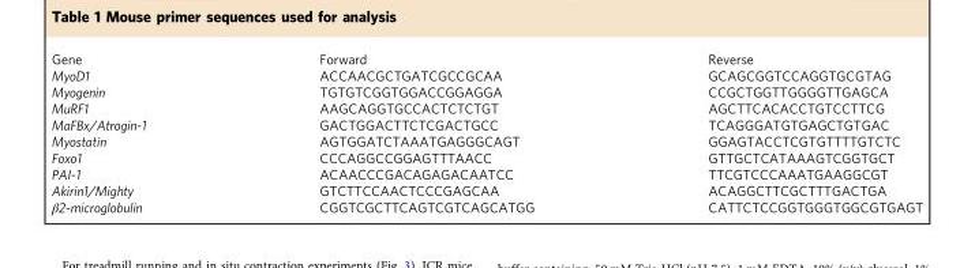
<table><tbody><tr><td>Gene</td><td>Forward</td><td>Reverse</td></tr><tr><td>MyoD1</td><td>ACCAACGCTGATCGCCGCAA</td><td>GCAGCGGTCCAGGTGCGTAG</td></tr><tr><td>Myogenin</td><td>TGTGTCGGTGGACCGGAGGA</td><td>CCGCTGGTTGGGGTTGAGCA</td></tr><tr><td>MuRF1</td><td>AAGCAGGTGCCACTCTCTGT</td><td>AGCTTCACACCTGTCCTTCG</td></tr><tr><td>MaFBx/Atrogin-1</td><td>GACTGGACTTCTCGACTGCC</td><td>TCAGGGATGTGAGCTGTGAC</td></tr><tr><td>Myostatin</td><td>AGTGGATCTAAATGAGGGCAGT</td><td>GGAGTACCTCGTGTTTTGTCTC</td></tr><tr><td>Foxo1</td><td>CCCAGGCCGGAGTTTAACC</td><td>GTTGCTCATAAAGTCGGTGCT</td></tr><tr><td>PAI-1</td><td>ACAACCCGACAGAGACAATCC</td><td>TTCGTCCCAAATGAAGGCGT</td></tr><tr><td>Akirin1/Mighty</td><td>GTCTTCCAACTCCCGAGCAA</td><td>ACAGGCTTCGCTTTGACTGA</td></tr><tr><td>β2-microglobulin</td><td>CGGTCGCTTCAGTCGTCAGCATGG</td><td>CATTCTCCGGTGGGTGGCGTGAGT</td></tr></tbody></table>